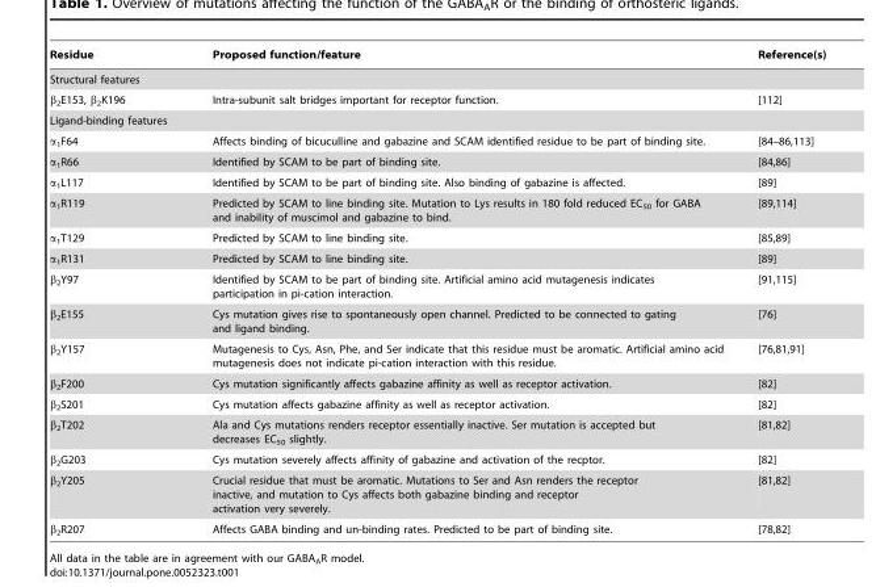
<table><thead><tr><td>Residue</td><td>Proposed function/feature</td><td>Reference(s)</td></tr></thead><tbody><tr><td colspan="3">Structural features</td></tr><tr><td>β<sub>2</sub>E153, β<sub>2</sub>K196</td><td>Intra-subunit salt bridges important for receptor function.</td><td>[112]</td></tr><tr><td colspan="3">Ligand-binding features</td></tr><tr><td>α<sub>1</sub>F64</td><td>Affects binding of bicuculline and gabazine and SCAM identified residue to be part of binding site.</td><td>[84–86,113]</td></tr><tr><td>α<sub>1</sub>R66</td><td>Identified by SCAM to be part of binding site.</td><td>[84,86]</td></tr><tr><td>α<sub>1</sub>L117</td><td>Identified by SCAM to be part of binding site. Also binding of gabazine is affected.</td><td>[89]</td></tr><tr><td>α<sub>1</sub>R119</td><td>Predicted by SCAM to line binding site. Mutation to Lys results in 180 fold reduced EC<sub>50</sub> for GABA and inability of muscimol and gabazine to bind.</td><td>[89,114]</td></tr><tr><td>α<sub>1</sub>T129</td><td>Predicted by SCAM to line binding site.</td><td>[85,89]</td></tr><tr><td>α<sub>1</sub>R131</td><td>Predicted by SCAM to line binding site.</td><td>[89]</td></tr><tr><td>β<sub>2</sub>Y97</td><td>Identified by SCAM to be part of binding site. Artificial amino acid mutagenesis indicates participation in pi-cation interaction.</td><td>[91,115]</td></tr><tr><td>β<sub>2</sub>E155</td><td>Cys mutation gives rise to spontaneously open channel. Predicted to be connected to gating and ligand binding.</td><td>[76]</td></tr><tr><td>β<sub>2</sub>Y157</td><td>Mutagenesis to Cys, Asn, Phe, and Ser indicate that this residue must be aromatic. Artificial amino acid mutagenesis does not indicate pi-cation interaction with this residue.</td><td>[76,81,91]</td></tr><tr><td>β<sub>2</sub>F200</td><td>Cys mutation significantly affects gabazine affinity as well as receptor activation.</td><td>[82]</td></tr><tr><td>β<sub>2</sub>S201</td><td>Cys mutation affects gabazine affinity as well as receptor activation.</td><td>[82]</td></tr><tr><td>β<sub>2</sub>T202</td><td>Ala and Cys mutations renders receptor essentially inactive. Ser mutation is accepted but decreases EC<sub>50</sub> slightly.</td><td>[81,82]</td></tr><tr><td>β<sub>2</sub>G203</td><td>Cys mutation severely affects affinity of gabazine and activation of the recptor.</td><td>[82]</td></tr><tr><td>β<sub>2</sub>Y205</td><td>Crucial residue that must be aromatic. Mutations to Ser and Asn renders the receptor inactive, and mutation to Cys affects both gabazine binding and receptor activation very severely.</td><td>[81,82]</td></tr><tr><td>β<sub>2</sub>R207</td><td>Affects GABA binding and un-binding rates. Predicted to be part of binding site.</td><td>[78,82]</td></tr></tbody></table>